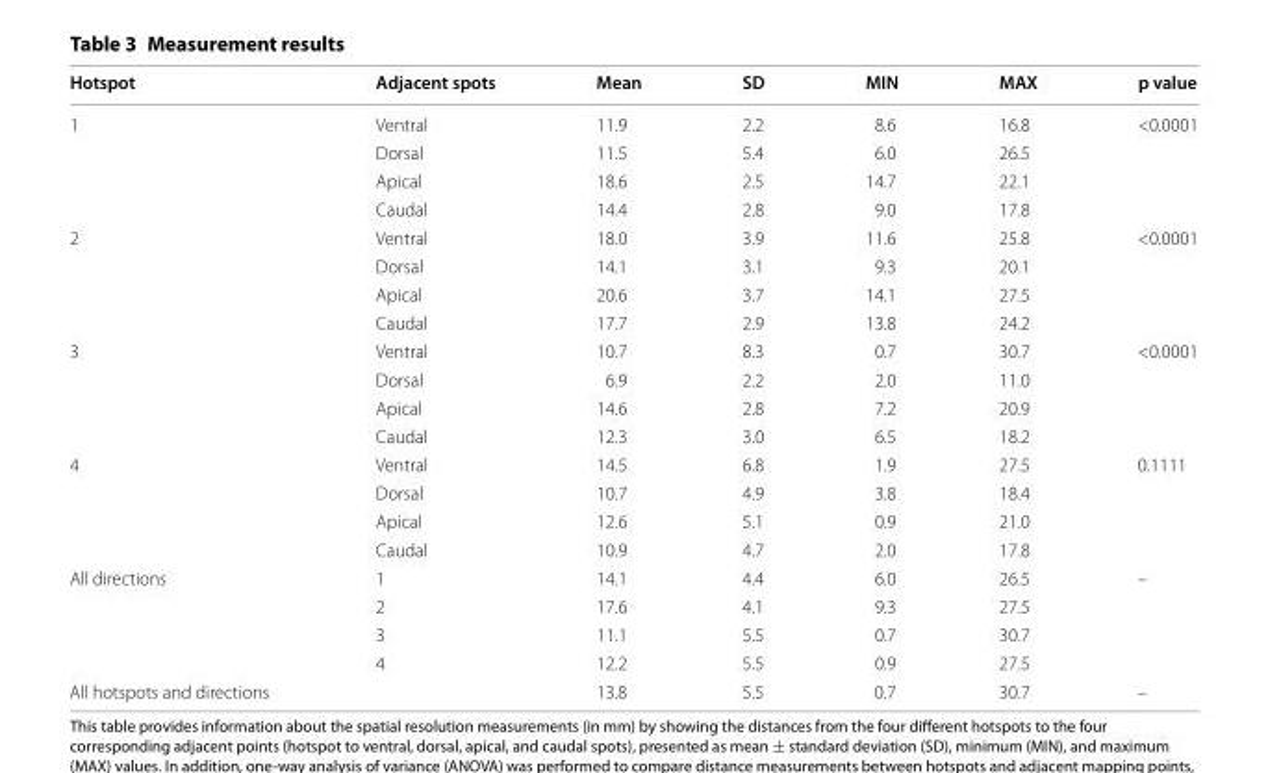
<table><thead><tr><td>Hotspot</td><td>Adjacent spots</td><td>Mean</td><td>SD</td><td>MIN</td><td>MAX</td><td>p value</td></tr></thead><tbody><tr><td rowspan="4">1</td><td>Ventral</td><td>11.9</td><td>2.2</td><td>8.6</td><td>16.8</td><td rowspan="4">&lt;0.0001</td></tr><tr><td>Dorsal</td><td>11.5</td><td>5.4</td><td>6.0</td><td>26.5</td></tr><tr><td>Apical</td><td>18.6</td><td>2.5</td><td>14.7</td><td>22.1</td></tr><tr><td>Caudal</td><td>14.4</td><td>2.8</td><td>9.0</td><td>17.8</td></tr><tr><td rowspan="4">2</td><td>Ventral</td><td>18.0</td><td>3.9</td><td>11.6</td><td>25.8</td><td rowspan="4">&lt;0.0001</td></tr><tr><td>Dorsal</td><td>14.1</td><td>3.1</td><td>9.3</td><td>20.1</td></tr><tr><td>Apical</td><td>20.6</td><td>3.7</td><td>14.1</td><td>27.5</td></tr><tr><td>Caudal</td><td>17.7</td><td>2.9</td><td>13.8</td><td>24.2</td></tr><tr><td rowspan="4">3</td><td>Ventral</td><td>10.7</td><td>8.3</td><td>0.7</td><td>30.7</td><td rowspan="4">&lt;0.0001</td></tr><tr><td>Dorsal</td><td>6.9</td><td>2.2</td><td>2.0</td><td>11.0</td></tr><tr><td>Apical</td><td>14.6</td><td>2.8</td><td>7.2</td><td>20.9</td></tr><tr><td>Caudal</td><td>12.3</td><td>3.0</td><td>6.5</td><td>18.2</td></tr><tr><td rowspan="4">4</td><td>Ventral</td><td>14.5</td><td>6.8</td><td>1.9</td><td>27.5</td><td rowspan="4">0.1111</td></tr><tr><td>Dorsal</td><td>10.7</td><td>4.9</td><td>3.8</td><td>18.4</td></tr><tr><td>Apical</td><td>12.6</td><td>5.1</td><td>0.9</td><td>21.0</td></tr><tr><td>Caudal</td><td>10.9</td><td>4.7</td><td>2.0</td><td>17.8</td></tr><tr><td rowspan="4">All directions</td><td>1</td><td>14.1</td><td>4.4</td><td>6.0</td><td>26.5</td><td rowspan="4">–</td></tr><tr><td>2</td><td>17.6</td><td>4.1</td><td>9.3</td><td>27.5</td></tr><tr><td>3</td><td>11.1</td><td>5.5</td><td>0.7</td><td>30.7</td></tr><tr><td>4</td><td>12.2</td><td>5.5</td><td>0.9</td><td>27.5</td></tr><tr><td colspan="2">All hotspots and directions</td><td>13.8</td><td>5.5</td><td>0.7</td><td>30.7</td><td>–</td></tr></tbody></table>